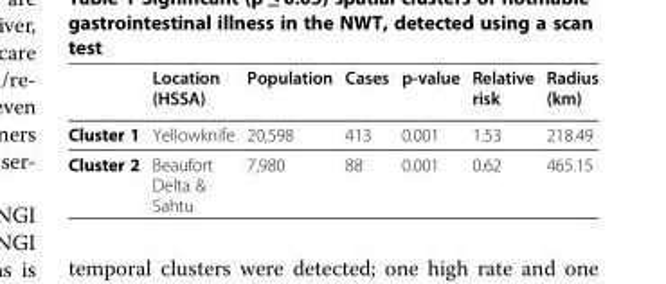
<table><thead><tr><td></td><td>Location (HSSA)</td><td>Population</td><td>Cases</td><td>p-value</td><td>Relative risk</td><td>Radius (km)</td></tr></thead><tbody><tr><td>Cluster 1</td><td>Yellowknife</td><td>20,598</td><td>413</td><td>0.001</td><td>1.53</td><td>218.49</td></tr><tr><td>Cluster 2</td><td>Beaufort Delta &amp; Sahtu</td><td>7,980</td><td>88</td><td>0.001</td><td>0.62</td><td>465.15</td></tr></tbody></table>